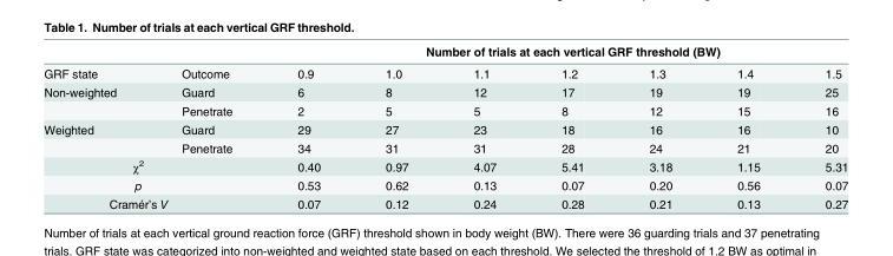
<table><thead><tr><td rowspan="2">GRF state</td><td rowspan="2">Outcome</td><td colspan="7">Number of trials at each vertical GRF threshold (BW)</td></tr><tr><td>0.9</td><td>1.0</td><td>1.1</td><td>1.2</td><td>1.3</td><td>1.4</td><td>1.5</td></tr></thead><tbody><tr><td rowspan="2">Non-weighted</td><td>Guard</td><td>6</td><td>8</td><td>12</td><td>17</td><td>19</td><td>19</td><td>25</td></tr><tr><td>Penetrate</td><td>2</td><td>5</td><td>5</td><td>8</td><td>12</td><td>15</td><td>16</td></tr><tr><td rowspan="2">Weighted</td><td>Guard</td><td>29</td><td>27</td><td>23</td><td>18</td><td>16</td><td>16</td><td>10</td></tr><tr><td>Penetrate</td><td>34</td><td>31</td><td>31</td><td>28</td><td>24</td><td>21</td><td>20</td></tr><tr><td colspan="2">χ<sup>2</sup></td><td>0.40</td><td>0.97</td><td>4.07</td><td>5.41</td><td>3.18</td><td>1.15</td><td>5.31</td></tr><tr><td colspan="2">p</td><td>0.53</td><td>0.62</td><td>0.13</td><td>0.07</td><td>0.20</td><td>0.56</td><td>0.07</td></tr><tr><td colspan="2">Cramér’s V</td><td>0.07</td><td>0.12</td><td>0.24</td><td>0.28</td><td>0.21</td><td>0.13</td><td>0.27</td></tr></tbody></table>